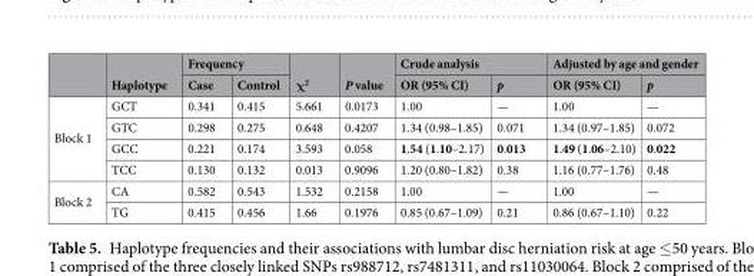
<table><thead><tr><td rowspan="2"></td><td rowspan="2">Haplotype</td><td colspan="2">Frequency</td><td rowspan="2">χ<sup>2</sup></td><td rowspan="2">P value</td><td colspan="2">Crude analysis</td><td colspan="2">Adjusted by age and gender</td></tr><tr><td>Case</td><td>Control</td><td>OR (95% CI)</td><td>p</td><td>OR (95% CI)</td><td>p</td></tr></thead><tbody><tr><td rowspan="4">Block 1</td><td>GCT</td><td>0.341</td><td>0.415</td><td>5.661</td><td>0.0173</td><td>1.00</td><td>—</td><td>1.00</td><td>—</td></tr><tr><td>GTC</td><td>0.298</td><td>0.275</td><td>0.648</td><td>0.4207</td><td>1.34 (0.98–1.85)</td><td>0.071</td><td>1.34 (0.97–1.85)</td><td>0.072</td></tr><tr><td>GCC</td><td>0.221</td><td>0.174</td><td>3.593</td><td>0.058</td><td>1.54 (1.10–2.17)</td><td>0.013</td><td>1.49 (1.06–2.10)</td><td>0.022</td></tr><tr><td>TCC</td><td>0.130</td><td>0.132</td><td>0.013</td><td>0.9096</td><td>1.20 (0.80–1.82)</td><td>0.38</td><td>1.16 (0.77–1.76)</td><td>0.48</td></tr><tr><td rowspan="2">Block 2</td><td>CA</td><td>0.582</td><td>0.543</td><td>1.532</td><td>0.2158</td><td>1.00</td><td>—</td><td>1.00</td><td>—</td></tr><tr><td>TG</td><td>0.415</td><td>0.456</td><td>1.66</td><td>0.1976</td><td>0.85 (0.67–1.09)</td><td>0.21</td><td>0.86 (0.67–1.10)</td><td>0.22</td></tr></tbody></table>